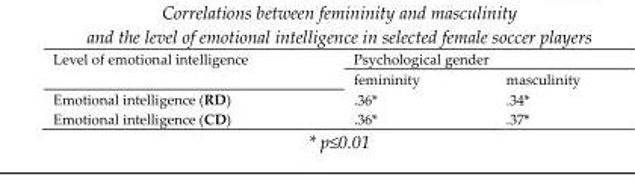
<table><thead><tr><td rowspan="2">Level of emotional intelligence</td><td colspan="2">Psychological gender</td></tr><tr><td>femininity</td><td>masculinity</td></tr></thead><tbody><tr><td>Emotional intelligence (RD)</td><td>.36*</td><td>.34*</td></tr><tr><td>Emotional intelligence (CD)</td><td>.36*</td><td>.37*</td></tr></tbody></table>